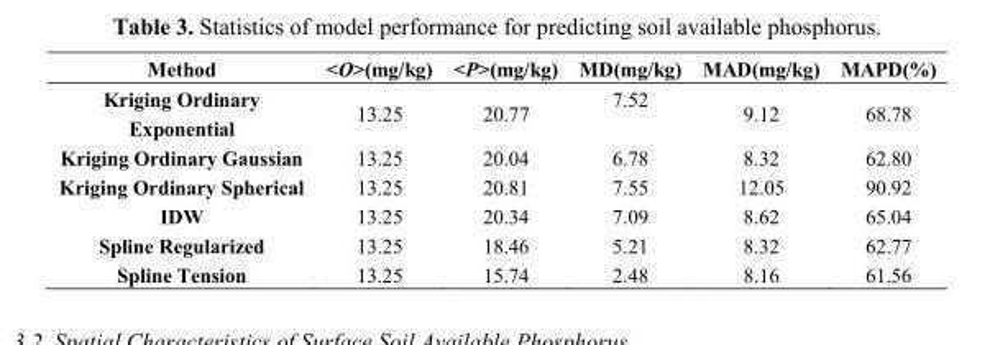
<table><thead><tr><td>Method</td><td>&lt;O&gt;(mg/kg)</td><td>&lt;P&gt;(mg/kg)</td><td>MD(mg/kg)</td><td>MAD(mg/kg)</td><td>MAPD(%)</td></tr></thead><tbody><tr><td>Kriging Ordinary Exponential</td><td>13.25</td><td>20.77</td><td>7.52</td><td>9.12</td><td>68.78</td></tr><tr><td>Kriging Ordinary Gaussian</td><td>13.25</td><td>20.04</td><td>6.78</td><td>8.32</td><td>62.80</td></tr><tr><td>Kriging Ordinary Spherical</td><td>13.25</td><td>20.81</td><td>7.55</td><td>12.05</td><td>90.92</td></tr><tr><td>IDW</td><td>13.25</td><td>20.34</td><td>7.09</td><td>8.62</td><td>65.04</td></tr><tr><td>Spline Regularized</td><td>13.25</td><td>18.46</td><td>5.21</td><td>8.32</td><td>62.77</td></tr><tr><td>Spline Tension</td><td>13.25</td><td>15.74</td><td>2.48</td><td>8.16</td><td>61.56</td></tr></tbody></table>